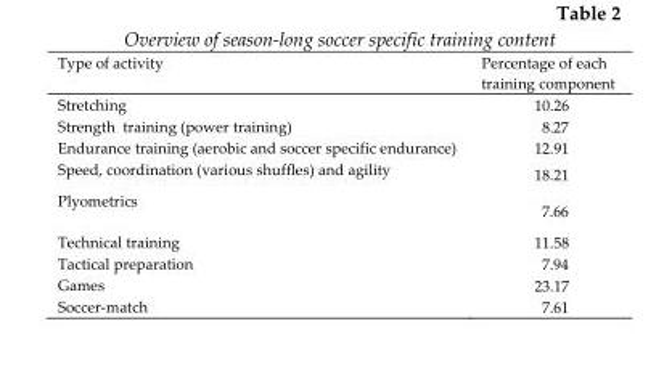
<table><thead><tr><td>Type of activity</td><td>Percentage of each training component</td></tr></thead><tbody><tr><td>Stretching</td><td>10.26</td></tr><tr><td>Strength training (power training)</td><td>8.27</td></tr><tr><td>Endurance training (aerobic and soccer specific endurance)</td><td>12.91</td></tr><tr><td>Speed, coordination (various shuffles) and agility</td><td>18.21</td></tr><tr><td>Plyometrics</td><td>7.66</td></tr><tr><td>Technical training</td><td>11.58</td></tr><tr><td>Tactical preparation</td><td>7.94</td></tr><tr><td>Games</td><td>23.17</td></tr><tr><td>Soccer-match</td><td>7.61</td></tr></tbody></table>